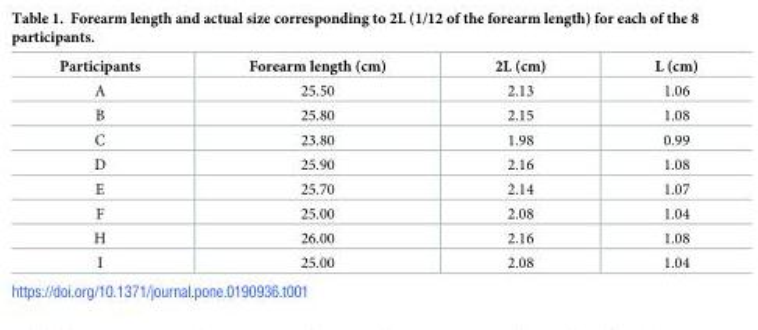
<table><thead><tr><td>Participants</td><td>Forearm length (cm)</td><td>2L (cm)</td><td>L (cm)</td></tr></thead><tbody><tr><td>A</td><td>25.50</td><td>2.13</td><td>1.06</td></tr><tr><td>B</td><td>25.80</td><td>2.15</td><td>1.08</td></tr><tr><td>C</td><td>23.80</td><td>1.98</td><td>0.99</td></tr><tr><td>D</td><td>25.90</td><td>2.16</td><td>1.08</td></tr><tr><td>E</td><td>25.70</td><td>2.14</td><td>1.07</td></tr><tr><td>F</td><td>25.00</td><td>2.08</td><td>1.04</td></tr><tr><td>H</td><td>26.00</td><td>2.16</td><td>1.08</td></tr><tr><td>I</td><td>25.00</td><td>2.08</td><td>1.04</td></tr></tbody></table>